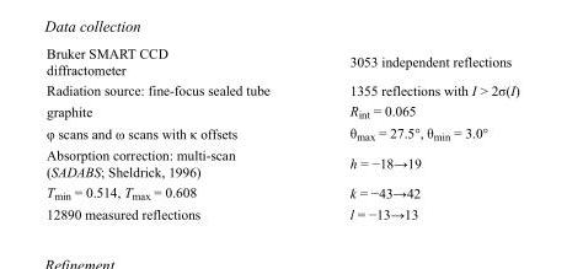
<table><tbody><tr><td>Bruker SMART CCD diffractometer</td><td>3053 independent reflections</td></tr><tr><td>Radiation source: fine-focus sealed tube</td><td>1355 reflections with I &gt; 2σ(I)</td></tr><tr><td>graphite</td><td>R<sub>int</sub> = 0.065</td></tr><tr><td>φ scans and ω scans with κ offsets</td><td>θ<sub>max</sub> = 27.5°, θ<sub>min</sub> = 3.0°</td></tr><tr><td>Absorption correction: multi-scan (SADABS; Sheldrick, 1996)</td><td>h = −18→19</td></tr><tr><td>T<sub>min</sub> = 0.514, T<sub>max</sub> = 0.608</td><td>k = −43→42</td></tr><tr><td>12890 measured reflections</td><td>l = −13→13</td></tr></tbody></table>